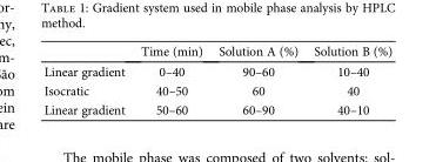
<table><thead><tr><td></td><td>Time (min)</td><td>Solution A (%)</td><td>Solution B (%)</td></tr></thead><tbody><tr><td>Linear gradient</td><td>0–40</td><td>90–60</td><td>10–40</td></tr><tr><td>Isocratic</td><td>40–50</td><td>60</td><td>40</td></tr><tr><td>Linear gradient</td><td>50–60</td><td>60–90</td><td>40–10</td></tr></tbody></table>